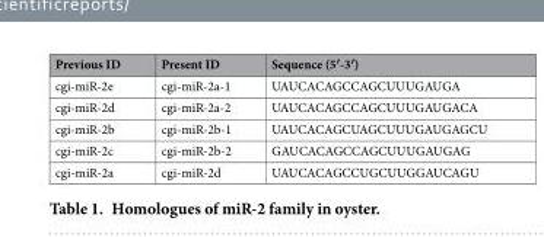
<table><thead><tr><td>Previous ID</td><td>Present ID</td><td>Sequence (5′-3′)</td></tr></thead><tbody><tr><td>cgi-miR-2e</td><td>cgi-miR-2a-1</td><td>UAUCACAGCCAGCUUUGAUGA</td></tr><tr><td>cgi-miR-2d</td><td>cgi-miR-2a-2</td><td>UAUCACAGCCAGCUUUGAUGACA</td></tr><tr><td>cgi-miR-2b</td><td>cgi-miR-2b-1</td><td>UAUCACAGCUAGCUUUGAUGAGCU</td></tr><tr><td>cgi-miR-2c</td><td>cgi-miR-2b-2</td><td>GAUCACAGCCAGCUUUGAUGAG</td></tr><tr><td>cgi-miR-2a</td><td>cgi-miR-2d</td><td>UAUCACAGCCUGCUUGGAUCAGU</td></tr></tbody></table>